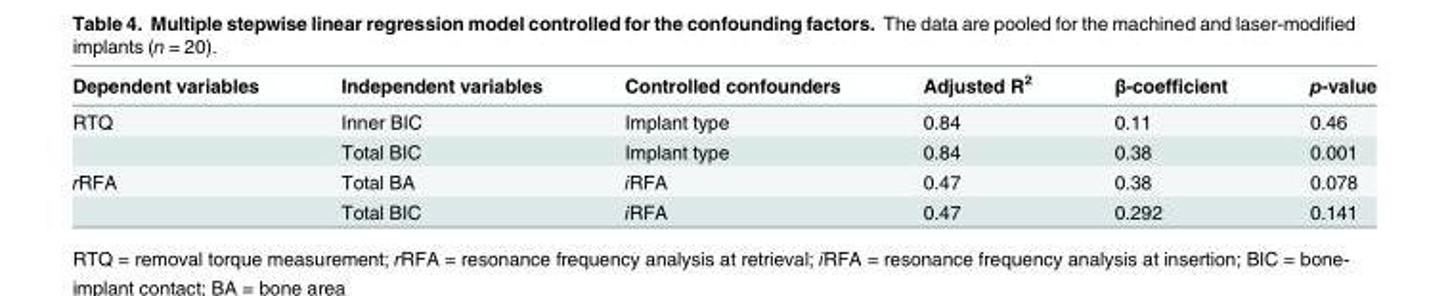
<table><thead><tr><td>Dependent variables</td><td>Independent variables</td><td>Controlled confounders</td><td>Adjusted R<sup>2</sup></td><td>β-coefficient</td><td>p-value</td></tr></thead><tbody><tr><td rowspan="2">RTQ</td><td>Inner BIC</td><td>Implant type</td><td>0.84</td><td>0.11</td><td>0.46</td></tr><tr><td>Total BIC</td><td>Implant type</td><td>0.84</td><td>0.38</td><td>0.001</td></tr><tr><td rowspan="2">rRFA</td><td>Total BA</td><td>iRFA</td><td>0.47</td><td>0.38</td><td>0.078</td></tr><tr><td>Total BIC</td><td>iRFA</td><td>0.47</td><td>0.292</td><td>0.141</td></tr></tbody></table>